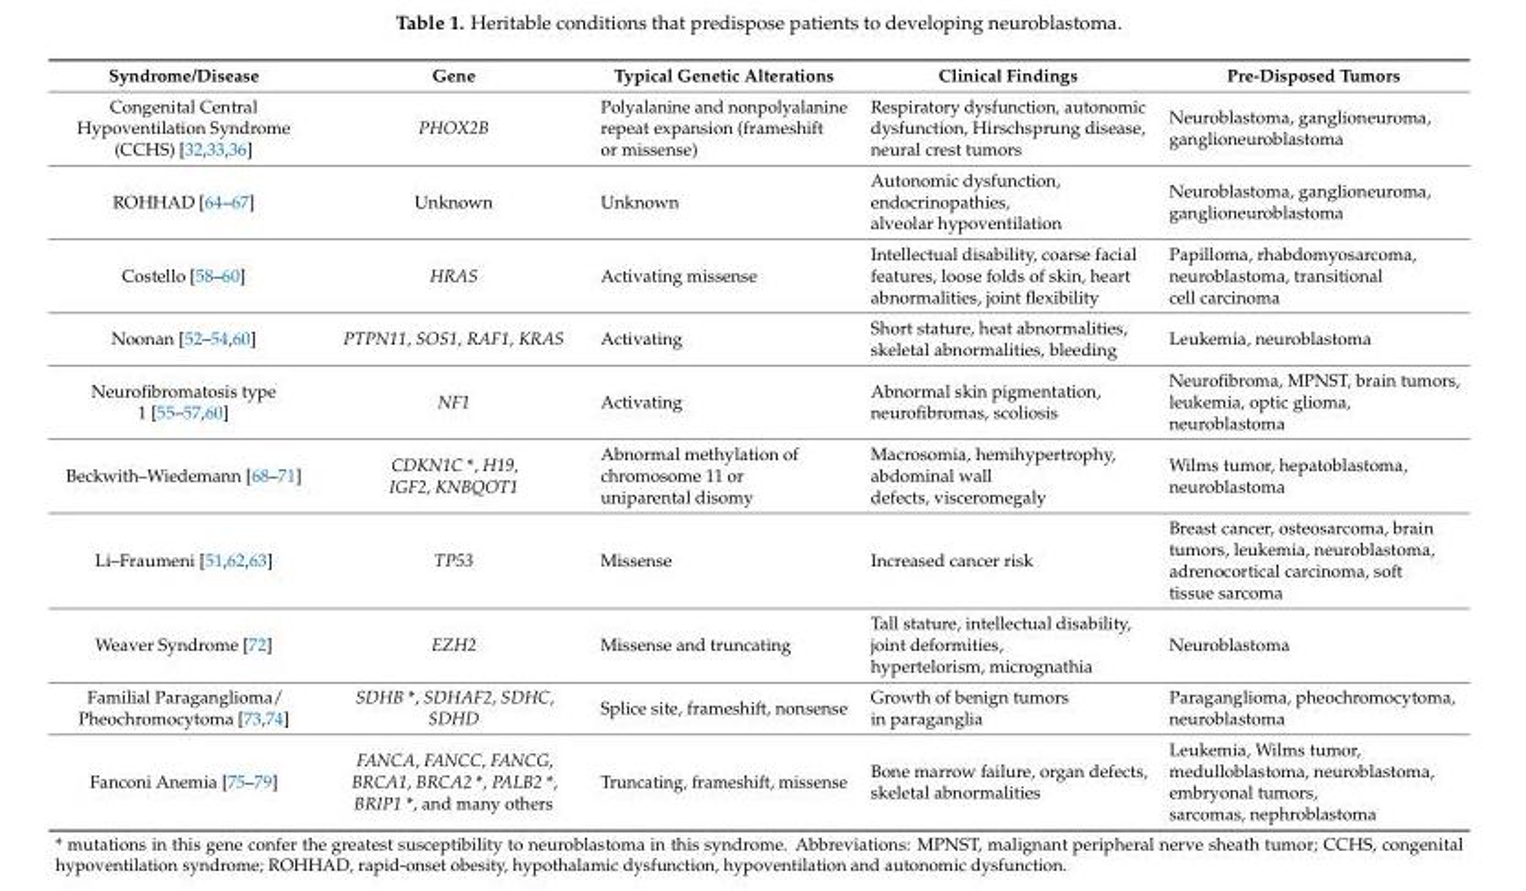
<table><thead><tr><td>Syndrome/Disease</td><td>Gene</td><td>Typical Genetic Alterations</td><td>Clinical Findings</td><td>Pre-Disposed Tumors</td></tr></thead><tbody><tr><td>Congenital Central Hypoventilation Syndrome (CCHS) [32,33,36]</td><td>PHOX2B</td><td>Polyalanine and nonpolyalanine repeat expansion (frameshift or missense)</td><td>Respiratory dysfunction, autonomic dysfunction, Hirschsprung disease, neural crest tumors</td><td>Neuroblastoma, ganglioneuroma, ganglioneuroblastoma</td></tr><tr><td>ROHHAD [64–67]</td><td>Unknown</td><td>Unknown</td><td>Autonomic dysfunction, endocrinopathies, alveolar hypoventilation</td><td>Neuroblastoma, ganglioneuroma, ganglioneuroblastoma</td></tr><tr><td>Costello [58–60]</td><td>HRAS</td><td>Activating missense</td><td>Intellectual disability, coarse facial features, loose folds of skin, heart abnormalities, joint flexibility</td><td>Papilloma, rhabdomyosarcoma, neuroblastoma, transitional cell carcinoma</td></tr><tr><td>Noonan [52–54,60]</td><td>PTPN11, SOS1, RAF1, KRAS</td><td>Activating</td><td>Short stature, heat abnormalities, skeletal abnormalities, bleeding</td><td>Leukemia, neuroblastoma</td></tr><tr><td>Neurofibromatosis type 1 [55–57,60]</td><td>NF1</td><td>Activating</td><td>Abnormal skin pigmentation, neurofibromas, scoliosis</td><td>Neurofibroma, MPNST, brain tumors, leukemia, optic glioma, neuroblastoma</td></tr><tr><td>Beckwith–Wiedemann [68–71]</td><td>CDKN1C *, H19, IGF2, KNBQOT1</td><td>Abnormal methylation of chromosome 11 or uniparental disomy</td><td>Macrosomia, hemihypertrophy, abdominal wall defects, visceromegaly</td><td>Wilms tumor, hepatoblastoma, neuroblastoma</td></tr><tr><td>Li–Fraumeni [51,62,63]</td><td>TP53</td><td>Missense</td><td>Increased cancer risk</td><td>Breast cancer, osteosarcoma, brain tumors, leukemia, neuroblastoma, adrenocortical carcinoma, soft tissue sarcoma</td></tr><tr><td>Weaver Syndrome [72]</td><td>EZH2</td><td>Missense and truncating</td><td>Tall stature, intellectual disability, joint deformities, hypertelorism, micrognathia</td><td>Neuroblastoma</td></tr><tr><td>Familial Paraganglioma/ Pheochromocytoma [73,74]</td><td>SDHB *, SDHAF2, SDHC, SDHD</td><td>Splice site, frameshift, nonsense</td><td>Growth of benign tumors in paraganglia</td><td>Paraganglioma, pheochromocytoma, neuroblastoma</td></tr><tr><td>Fanconi Anemia [75–79]</td><td>FANCA, FANCC, FANCG, BRCA1, BRCA2 *, PALB2 *, BRIP1 *, and many others</td><td>Truncating, frameshift, missense</td><td>Bone marrow failure, organ defects, skeletal abnormalities</td><td>Leukemia, Wilms tumor, medulloblastoma, neuroblastoma, embryonal tumors, sarcomas, nephroblastoma</td></tr></tbody></table>